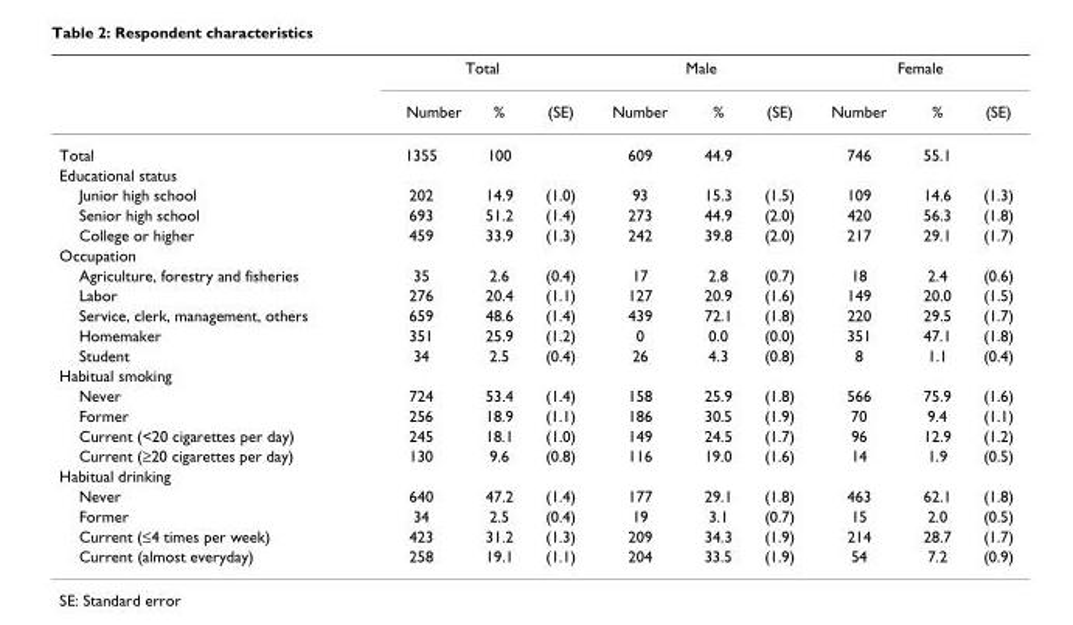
<table><thead><tr><td rowspan="2"></td><td colspan="3">Total</td><td colspan="3">Male</td><td colspan="3">Female</td></tr><tr><td>Number</td><td>%</td><td>(SE)</td><td>Number</td><td>%</td><td>(SE)</td><td>Number</td><td>%</td><td>(SE)</td></tr></thead><tbody><tr><td>Total</td><td>1355</td><td>100</td><td></td><td>609</td><td>44.9</td><td></td><td>746</td><td>55.1</td><td></td></tr><tr><td colspan="10">Educational status</td></tr><tr><td>Junior high school</td><td>202</td><td>14.9</td><td>(1.0)</td><td>93</td><td>15.3</td><td>(1.5)</td><td>109</td><td>14.6</td><td>(1.3)</td></tr><tr><td>Senior high school</td><td>693</td><td>51.2</td><td>(1.4)</td><td>273</td><td>44.9</td><td>(2.0)</td><td>420</td><td>56.3</td><td>(1.8)</td></tr><tr><td>College or higher</td><td>459</td><td>33.9</td><td>(1.3)</td><td>242</td><td>39.8</td><td>(2.0)</td><td>217</td><td>29.1</td><td>(1.7)</td></tr><tr><td colspan="10">Occupation</td></tr><tr><td>Agriculture, forestry and fisheries</td><td>35</td><td>2.6</td><td>(0.4)</td><td>17</td><td>2.8</td><td>(0.7)</td><td>18</td><td>2.4</td><td>(0.6)</td></tr><tr><td>Labor</td><td>276</td><td>20.4</td><td>(1.1)</td><td>127</td><td>20.9</td><td>(1.6)</td><td>149</td><td>20.0</td><td>(1.5)</td></tr><tr><td>Service, clerk, management, others</td><td>659</td><td>48.6</td><td>(1.4)</td><td>439</td><td>72.1</td><td>(1.8)</td><td>220</td><td>29.5</td><td>(1.7)</td></tr><tr><td>Homemaker</td><td>351</td><td>25.9</td><td>(1.2)</td><td>0</td><td>0.0</td><td>(0.0)</td><td>351</td><td>47.1</td><td>(1.8)</td></tr><tr><td>Student</td><td>34</td><td>2.5</td><td>(0.4)</td><td>26</td><td>4.3</td><td>(0.8)</td><td>8</td><td>1.1</td><td>(0.4)</td></tr><tr><td colspan="10">Habitual smoking</td></tr><tr><td>Never</td><td>724</td><td>53.4</td><td>(1.4)</td><td>158</td><td>25.9</td><td>(1.8)</td><td>566</td><td>75.9</td><td>(1.6)</td></tr><tr><td>Former</td><td>256</td><td>18.9</td><td>(1.1)</td><td>186</td><td>30.5</td><td>(1.9)</td><td>70</td><td>9.4</td><td>(1.1)</td></tr><tr><td>Current (&lt;20 cigarettes per day)</td><td>245</td><td>18.1</td><td>(1.0)</td><td>149</td><td>24.5</td><td>(1.7)</td><td>96</td><td>12.9</td><td>(1.2)</td></tr><tr><td>Current (≥20 cigarettes per day)</td><td>130</td><td>9.6</td><td>(0.8)</td><td>116</td><td>19.0</td><td>(1.6)</td><td>14</td><td>1.9</td><td>(0.5)</td></tr><tr><td colspan="10">Habitual drinking</td></tr><tr><td>Never</td><td>640</td><td>47.2</td><td>(1.4)</td><td>177</td><td>29.1</td><td>(1.8)</td><td>463</td><td>62.1</td><td>(1.8)</td></tr><tr><td>Former</td><td>34</td><td>2.5</td><td>(0.4)</td><td>19</td><td>3.1</td><td>(0.7)</td><td>15</td><td>2.0</td><td>(0.5)</td></tr><tr><td>Current (≤4 times per week)</td><td>423</td><td>31.2</td><td>(1.3)</td><td>209</td><td>34.3</td><td>(1.9)</td><td>214</td><td>28.7</td><td>(1.7)</td></tr><tr><td>Current (almost everyday)</td><td>258</td><td>19.1</td><td>(1.1)</td><td>204</td><td>33.5</td><td>(1.9)</td><td>54</td><td>7.2</td><td>(0.9)</td></tr></tbody></table>